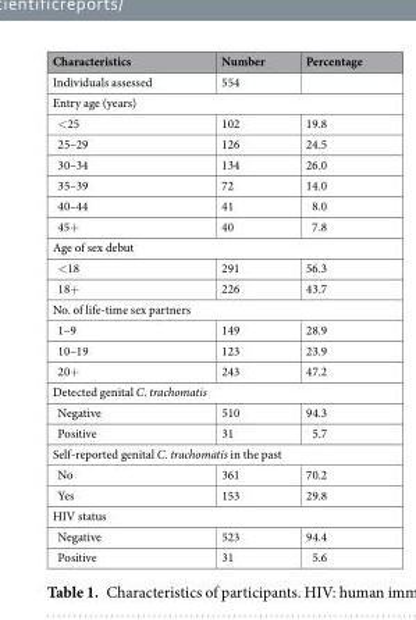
<table><thead><tr><td>Characteristics</td><td>Number</td><td>Percentage</td></tr></thead><tbody><tr><td>Individuals assessed</td><td>554</td><td></td></tr><tr><td colspan="3">Entry age (years)</td></tr><tr><td>&lt;25</td><td>102</td><td>19.8</td></tr><tr><td>25–29</td><td>126</td><td>24.5</td></tr><tr><td>30–34</td><td>134</td><td>26.0</td></tr><tr><td>35–39</td><td>72</td><td>14.0</td></tr><tr><td>40–44</td><td>41</td><td>8.0</td></tr><tr><td>45+</td><td>40</td><td>7.8</td></tr><tr><td colspan="3">Age of sex debut</td></tr><tr><td>&lt;18</td><td>291</td><td>56.3</td></tr><tr><td>18+</td><td>226</td><td>43.7</td></tr><tr><td colspan="3">No. of life-time sex partners</td></tr><tr><td>1–9</td><td>149</td><td>28.9</td></tr><tr><td>10–19</td><td>123</td><td>23.9</td></tr><tr><td>20+</td><td>243</td><td>47.2</td></tr><tr><td colspan="3">Detected genital C. trachomatis</td></tr><tr><td>Negative</td><td>510</td><td>94.3</td></tr><tr><td>Positive</td><td>31</td><td>5.7</td></tr><tr><td colspan="3">Self-reported genital C. trachomatis in the past</td></tr><tr><td>No</td><td>361</td><td>70.2</td></tr><tr><td>Yes</td><td>153</td><td>29.8</td></tr><tr><td colspan="3">HIV status</td></tr><tr><td>Negative</td><td>523</td><td>94.4</td></tr><tr><td>Positive</td><td>31</td><td>5.6</td></tr></tbody></table>